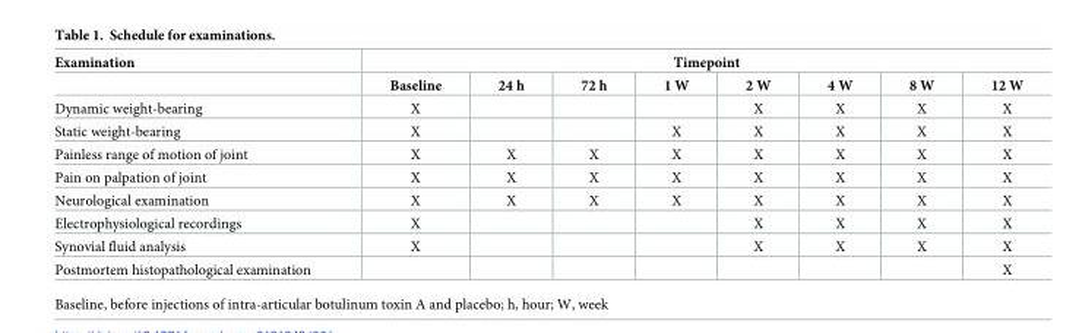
<table><thead><tr><td rowspan="2">Examination</td><td colspan="8">Timepoint</td></tr><tr><td>Baseline</td><td>24 h</td><td>72 h</td><td>1 W</td><td>2 W</td><td>4 W</td><td>8 W</td><td>12 W</td></tr></thead><tbody><tr><td>Dynamic weight-bearing</td><td>X</td><td></td><td></td><td></td><td>X</td><td>X</td><td>X</td><td>X</td></tr><tr><td>Static weight-bearing</td><td>X</td><td></td><td></td><td>X</td><td>X</td><td>X</td><td>X</td><td>X</td></tr><tr><td>Painless range of motion of joint</td><td>X</td><td>X</td><td>X</td><td>X</td><td>X</td><td>X</td><td>X</td><td>X</td></tr><tr><td>Pain on palpation of joint</td><td>X</td><td>X</td><td>X</td><td>X</td><td>X</td><td>X</td><td>X</td><td>X</td></tr><tr><td>Neurological examination</td><td>X</td><td>X</td><td>X</td><td>X</td><td>X</td><td>X</td><td>X</td><td>X</td></tr><tr><td>Electrophysiological recordings</td><td>X</td><td></td><td></td><td></td><td>X</td><td>X</td><td>X</td><td>X</td></tr><tr><td>Synovial fluid analysis</td><td>X</td><td></td><td></td><td></td><td>X</td><td>X</td><td>X</td><td>X</td></tr><tr><td>Postmortem histopathological examination</td><td></td><td></td><td></td><td></td><td></td><td></td><td></td><td>X</td></tr></tbody></table>